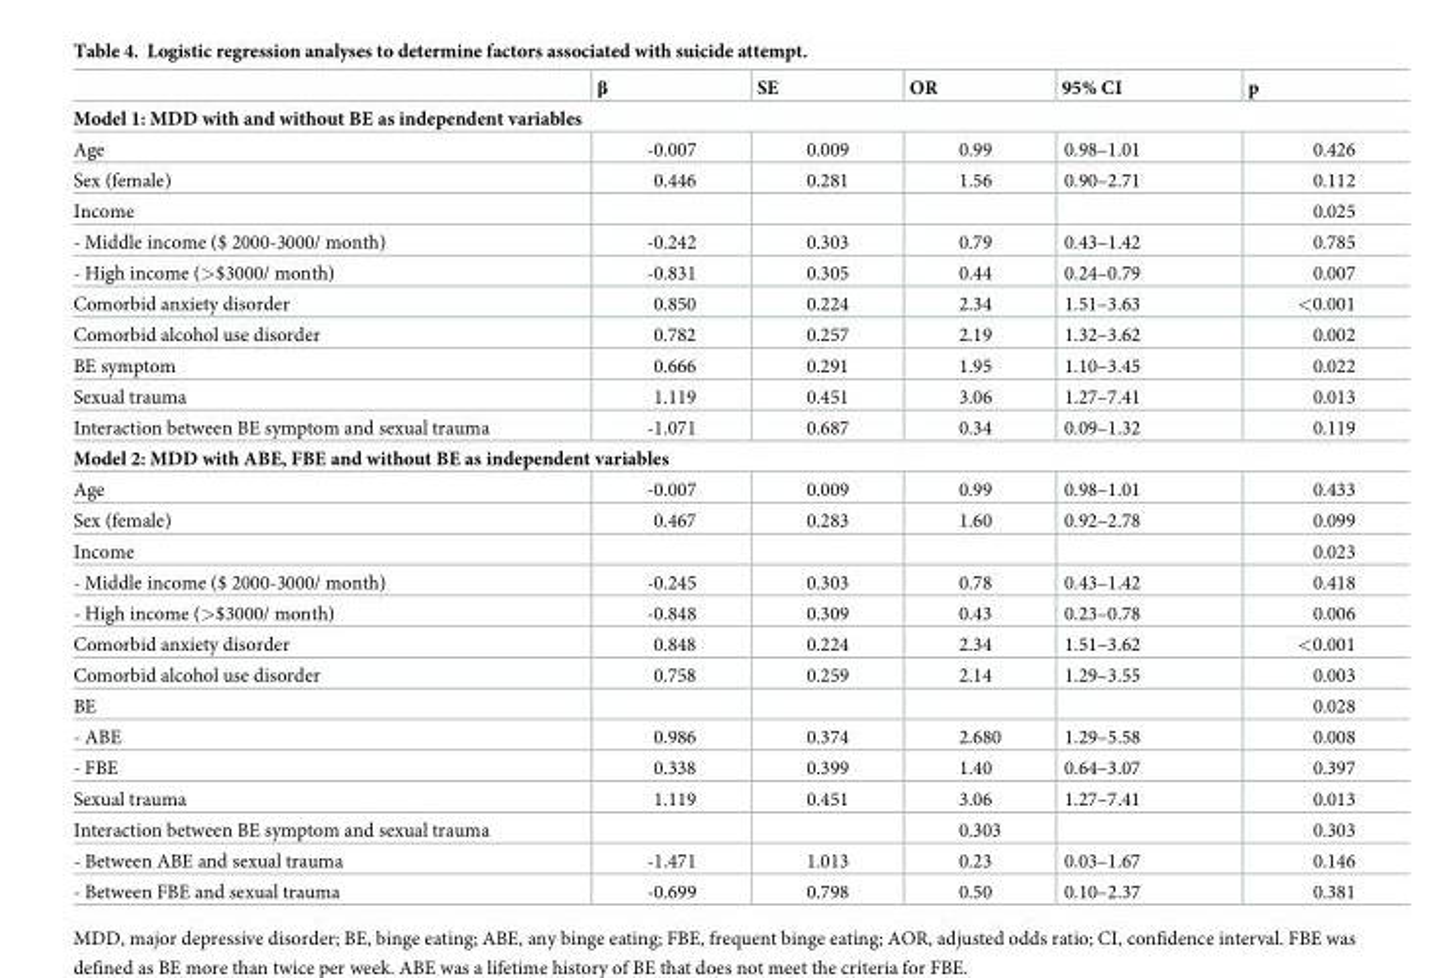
<table><thead><tr><td></td><td>β</td><td>SE</td><td>OR</td><td>95% CI</td><td>p</td></tr></thead><tbody><tr><td colspan="6">Model 1: MDD with and without BE as independent variables</td></tr><tr><td>Age</td><td>-0.007</td><td>0.009</td><td>0.99</td><td>0.98–1.01</td><td>0.426</td></tr><tr><td>Sex (female)</td><td>0.446</td><td>0.281</td><td>1.56</td><td>0.90–2.71</td><td>0.112</td></tr><tr><td>Income</td><td></td><td></td><td></td><td></td><td>0.025</td></tr><tr><td>- Middle income ($ 2000-3000/ month)</td><td>-0.242</td><td>0.303</td><td>0.79</td><td>0.43–1.42</td><td>0.785</td></tr><tr><td>- High income (&gt;$3000/ month)</td><td>-0.831</td><td>0.305</td><td>0.44</td><td>0.24–0.79</td><td>0.007</td></tr><tr><td>Comorbid anxiety disorder</td><td>0.850</td><td>0.224</td><td>2.34</td><td>1.51–3.63</td><td>&lt;0.001</td></tr><tr><td>Comorbid alcohol use disorder</td><td>0.782</td><td>0.257</td><td>2.19</td><td>1.32–3.62</td><td>0.002</td></tr><tr><td>BE symptom</td><td>0.666</td><td>0.291</td><td>1.95</td><td>1.10–3.45</td><td>0.022</td></tr><tr><td>Sexual trauma</td><td>1.119</td><td>0.451</td><td>3.06</td><td>1.27–7.41</td><td>0.013</td></tr><tr><td>Interaction between BE symptom and sexual trauma</td><td>-1.071</td><td>0.687</td><td>0.34</td><td>0.09–1.32</td><td>0.119</td></tr><tr><td colspan="6">Model 2: MDD with ABE, FBE and without BE as independent variables</td></tr><tr><td>Age</td><td>-0.007</td><td>0.009</td><td>0.99</td><td>0.98–1.01</td><td>0.433</td></tr><tr><td>Sex (female)</td><td>0.467</td><td>0.283</td><td>1.60</td><td>0.92–2.78</td><td>0.099</td></tr><tr><td>Income</td><td></td><td></td><td></td><td></td><td>0.023</td></tr><tr><td>- Middle income ($ 2000-3000/ month)</td><td>-0.245</td><td>0.303</td><td>0.78</td><td>0.43–1.42</td><td>0.418</td></tr><tr><td>- High income (&gt;$3000/ month)</td><td>-0.848</td><td>0.309</td><td>0.43</td><td>0.23–0.78</td><td>0.006</td></tr><tr><td>Comorbid anxiety disorder</td><td>0.848</td><td>0.224</td><td>2.34</td><td>1.51–3.62</td><td>&lt;0.001</td></tr><tr><td>Comorbid alcohol use disorder</td><td>0.758</td><td>0.259</td><td>2.14</td><td>1.29–3.55</td><td>0.003</td></tr><tr><td>BE</td><td></td><td></td><td></td><td></td><td>0.028</td></tr><tr><td>- ABE</td><td>0.986</td><td>0.374</td><td>2.680</td><td>1.29–5.58</td><td>0.008</td></tr><tr><td>- FBE</td><td>0.338</td><td>0.399</td><td>1.40</td><td>0.64–3.07</td><td>0.397</td></tr><tr><td>Sexual trauma</td><td>1.119</td><td>0.451</td><td>3.06</td><td>1.27–7.41</td><td>0.013</td></tr><tr><td>Interaction between BE symptom and sexual trauma</td><td></td><td></td><td>0.303</td><td></td><td>0.303</td></tr><tr><td>- Between ABE and sexual trauma</td><td>-1.471</td><td>1.013</td><td>0.23</td><td>0.03–1.67</td><td>0.146</td></tr><tr><td>- Between FBE and sexual trauma</td><td>-0.699</td><td>0.798</td><td>0.50</td><td>0.10–2.37</td><td>0.381</td></tr></tbody></table>